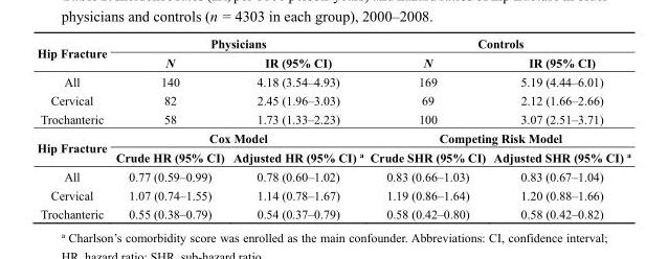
<table><tbody><tr><td rowspan="2">Hip Fracture</td><td colspan="2">Physicians</td><td colspan="2">Controls</td></tr><tr><td>N</td><td>IR (95% CI)</td><td>N</td><td>IR (95% CI)</td></tr><tr><td>All</td><td>140</td><td>4.18 (3.54–4.93)</td><td>169</td><td>5.19 (4.44–6.01)</td></tr><tr><td>Cervical</td><td>82</td><td>2.45 (1.96–3.03)</td><td>69</td><td>2.12 (1.66–2.66)</td></tr><tr><td>Trochanteric</td><td>58</td><td>1.73 (1.33–2.23)</td><td>100</td><td>3.07 (2.51–3.71)</td></tr><tr><td rowspan="2">Hip Fracture</td><td colspan="2">Cox Model</td><td colspan="2">Competing Risk Model</td></tr><tr><td>Crude HR (95% CI)</td><td>Adjusted HR (95% CI) <sup>a</sup></td><td>Crude SHR (95% CI)</td><td>Adjusted SHR (95% CI) <sup>a</sup></td></tr><tr><td>All</td><td>0.77 (0.59–0.99)</td><td>0.78 (0.60–1.02)</td><td>0.83 (0.66–1.03)</td><td>0.83 (0.67–1.04)</td></tr><tr><td>Cervical</td><td>1.07 (0.74–1.55)</td><td>1.14 (0.78–1.67)</td><td>1.19 (0.86–1.64)</td><td>1.20 (0.88–1.66)</td></tr><tr><td>Trochanteric</td><td>0.55 (0.38–0.79)</td><td>0.54 (0.37–0.79)</td><td>0.58 (0.42–0.80)</td><td>0.58 (0.42–0.82)</td></tr></tbody></table>